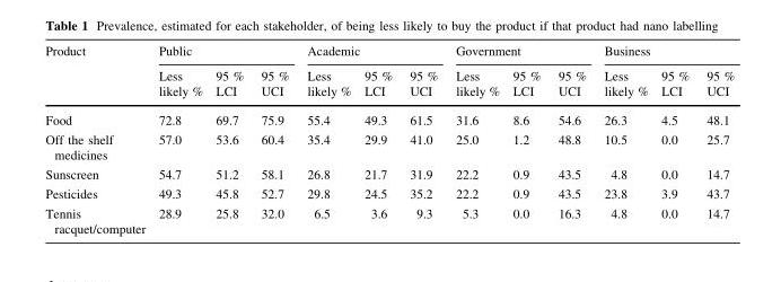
<table><thead><tr><td rowspan="2">Product</td><td colspan="3">Public</td><td colspan="3">Academic</td><td colspan="3">Government</td><td colspan="3">Business</td></tr><tr><td>Less likely %</td><td>95 % LCI</td><td>95 % UCI</td><td>Less likely %</td><td>95 % LCI</td><td>95 % UCI</td><td>Less likely %</td><td>95 % LCI</td><td>95 % UCI</td><td>Less likely %</td><td>95 % LCI</td><td>95 % UCI</td></tr></thead><tbody><tr><td>Food</td><td>72.8</td><td>69.7</td><td>75.9</td><td>55.4</td><td>49.3</td><td>61.5</td><td>31.6</td><td>8.6</td><td>54.6</td><td>26.3</td><td>4.5</td><td>48.1</td></tr><tr><td>Off the shelf medicines</td><td>57.0</td><td>53.6</td><td>60.4</td><td>35.4</td><td>29.9</td><td>41.0</td><td>25.0</td><td>1.2</td><td>48.8</td><td>10.5</td><td>0.0</td><td>25.7</td></tr><tr><td>Sunscreen</td><td>54.7</td><td>51.2</td><td>58.1</td><td>26.8</td><td>21.7</td><td>31.9</td><td>22.2</td><td>0.9</td><td>43.5</td><td>4.8</td><td>0.0</td><td>14.7</td></tr><tr><td>Pesticides</td><td>49.3</td><td>45.8</td><td>52.7</td><td>29.8</td><td>24.5</td><td>35.2</td><td>22.2</td><td>0.9</td><td>43.5</td><td>23.8</td><td>3.9</td><td>43.7</td></tr><tr><td>Tennis racquet/computer</td><td>28.9</td><td>25.8</td><td>32.0</td><td>6.5</td><td>3.6</td><td>9.3</td><td>5.3</td><td>0.0</td><td>16.3</td><td>4.8</td><td>0.0</td><td>14.7</td></tr></tbody></table>